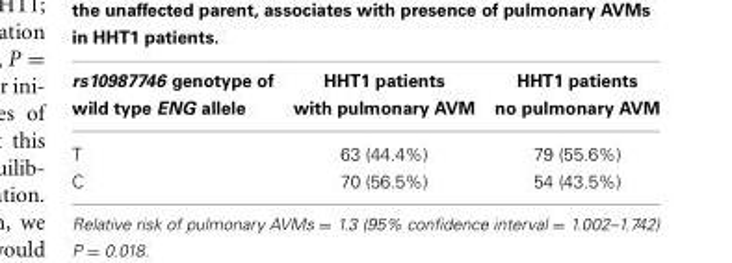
<table><thead><tr><td>rs10987746 genotype of wild type ENG allele</td><td>HHT1 patients with pulmonary AVM</td><td>HHT1 patients no pulmonary AVM</td></tr></thead><tbody><tr><td>T</td><td>63 (44.4%)</td><td>79 (55.6%)</td></tr><tr><td>C</td><td>70 (56.5%)</td><td>54 (43.5%)</td></tr></tbody></table>